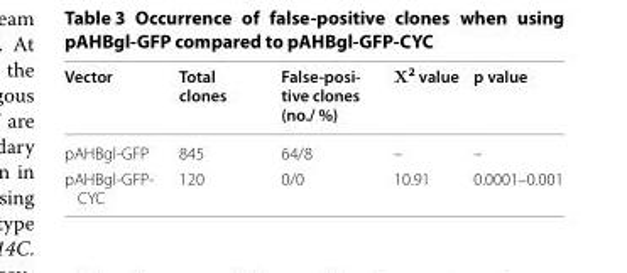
<table><thead><tr><td>Vector</td><td>Total clones</td><td>False‑posi‑ tive clones (no./ %)</td><td>Χ<sup>2</sup> value</td><td>p value</td></tr></thead><tbody><tr><td>pAHBgl‑GFP</td><td>845</td><td>64/8</td><td>–</td><td>–</td></tr><tr><td>pAHBgl‑GFP‑ CYC</td><td>120</td><td>0/0</td><td>10.91</td><td>0.0001–0.001</td></tr></tbody></table>